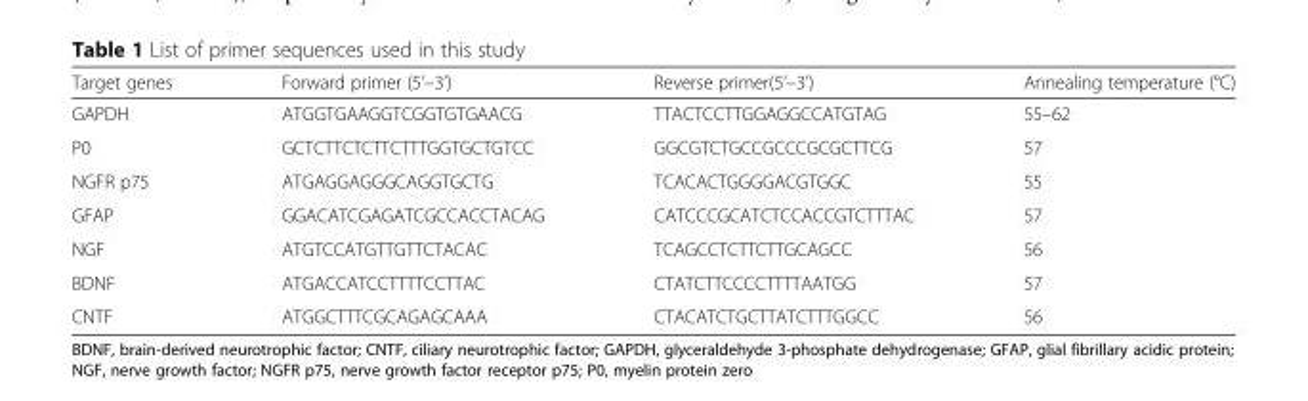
<table><thead><tr><td>Target genes</td><td>Forward primer (5’–3’)</td><td>Reverse primer(5’–3’)</td><td>Annealing temperature (°C)</td></tr></thead><tbody><tr><td>GAPDH</td><td>ATGGTGAAGGTCGGTGTGAACG</td><td>TTACTCCTTGGAGGCCATGTAG</td><td>55–62</td></tr><tr><td>P0</td><td>GCTCTTCTCTTCTTTGGTGCTGTCC</td><td>GGCGTCTGCCGCCCGCGCTTCG</td><td>57</td></tr><tr><td>NGFR p75</td><td>ATGAGGAGGGCAGGTGCTG</td><td>TCACACTGGGGACGTGGC</td><td>55</td></tr><tr><td>GFAP</td><td>GGACATCGAGATCGCCACCTACAG</td><td>CATCCCGCATCTCCACCGTCTTTAC</td><td>57</td></tr><tr><td>NGF</td><td>ATGTCCATGTTGTTCTACAC</td><td>TCAGCCTCTTCTTGCAGCC</td><td>56</td></tr><tr><td>BDNF</td><td>ATGACCATCCTTTTCCTTAC</td><td>CTATCTTCCCCTTTTAATGG</td><td>57</td></tr><tr><td>CNTF</td><td>ATGGCTTTCGCAGAGCAAA</td><td>CTACATCTGCTTATCTTTGGCC</td><td>56</td></tr></tbody></table>